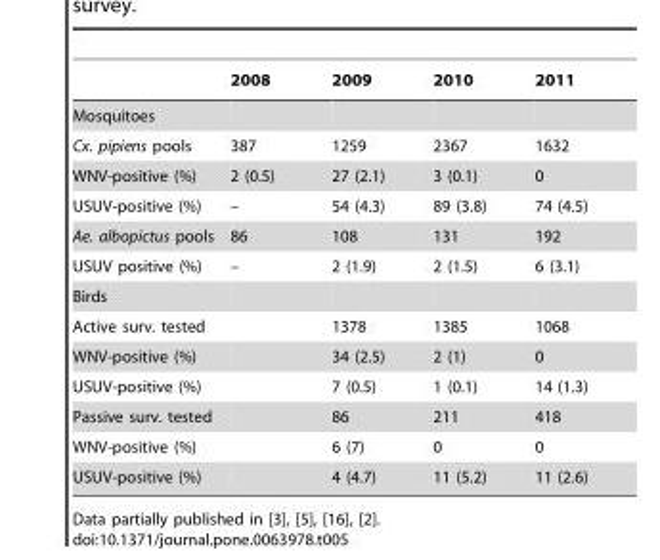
<table><thead><tr><td></td><td>2008</td><td>2009</td><td>2010</td><td>2011</td></tr></thead><tbody><tr><td colspan="5">Mosquitoes</td></tr><tr><td>Cx. pipiens pools</td><td>387</td><td>1259</td><td>2367</td><td>1632</td></tr><tr><td>WNV-positive (%)</td><td>2 (0.5)</td><td>27 (2.1)</td><td>3 (0.1)</td><td>0</td></tr><tr><td>USUV-positive (%)</td><td>–</td><td>54 (4.3)</td><td>89 (3.8)</td><td>74 (4.5)</td></tr><tr><td>Ae. albopictus pools</td><td>86</td><td>108</td><td>131</td><td>192</td></tr><tr><td>USUV positive (%)</td><td>–</td><td>2 (1.9)</td><td>2 (1.5)</td><td>6 (3.1)</td></tr><tr><td colspan="5">Birds</td></tr><tr><td>Active surv. tested</td><td></td><td>1378</td><td>1385</td><td>1068</td></tr><tr><td>WNV-positive (%)</td><td></td><td>34 (2.5)</td><td>2 (1)</td><td>0</td></tr><tr><td>USUV-positive (%)</td><td></td><td>7 (0.5)</td><td>1 (0.1)</td><td>14 (1.3)</td></tr><tr><td>Passive surv. tested</td><td></td><td>86</td><td>211</td><td>418</td></tr><tr><td>WNV-positive (%)</td><td></td><td>6 (7)</td><td>0</td><td>0</td></tr><tr><td>USUV-positive (%)</td><td></td><td>4 (4.7)</td><td>11 (5.2)</td><td>11 (2.6)</td></tr></tbody></table>